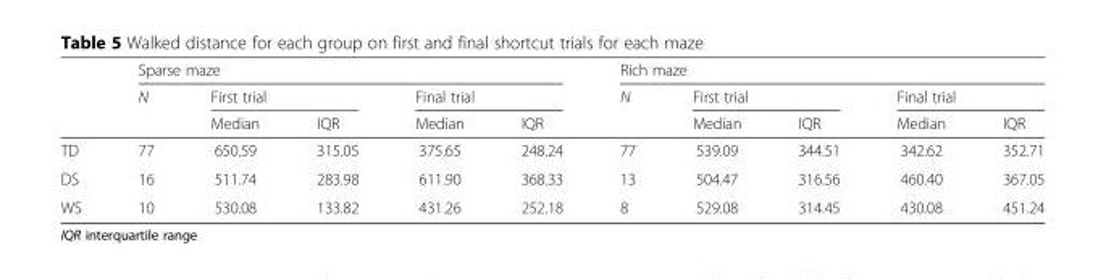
<table><thead><tr><td rowspan="3"></td><td colspan="5">Sparse maze</td><td colspan="5">Rich maze</td></tr><tr><td rowspan="2">N</td><td colspan="2">First trial</td><td colspan="2">Final trial</td><td rowspan="2">N</td><td colspan="2">First trial</td><td colspan="2">Final trial</td></tr><tr><td>Median</td><td>IQR</td><td>Median</td><td>IQR</td><td>Median</td><td>IQR</td><td>Median</td><td>IQR</td></tr></thead><tbody><tr><td>TD</td><td>77</td><td>650.59</td><td>315.05</td><td>375.65</td><td>248.24</td><td>77</td><td>539.09</td><td>344.51</td><td>342.62</td><td>352.71</td></tr><tr><td>DS</td><td>16</td><td>511.74</td><td>283.98</td><td>611.90</td><td>368.33</td><td>13</td><td>504.47</td><td>316.56</td><td>460.40</td><td>367.05</td></tr><tr><td>WS</td><td>10</td><td>530.08</td><td>133.82</td><td>431.26</td><td>252.18</td><td>8</td><td>529.08</td><td>314.45</td><td>430.08</td><td>451.24</td></tr></tbody></table>